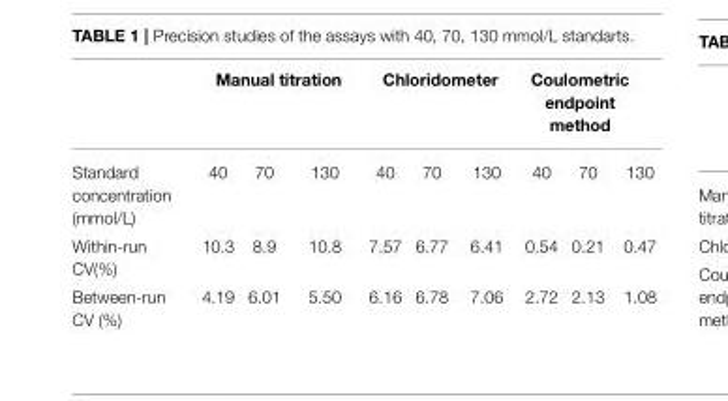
<table><thead><tr><td rowspan="2">Standard concentration (mmol/L)</td><td colspan="3">Manual titration</td><td colspan="3">Chloridometer</td><td colspan="3">Coulometric endpoint method</td></tr><tr><td>40</td><td>70</td><td>130</td><td>40</td><td>70</td><td>130</td><td>40</td><td>70</td><td>130</td></tr></thead><tbody><tr><td>Within-run CV(%)</td><td>10.3</td><td>8.9</td><td>10.8</td><td>7.57</td><td>6.77</td><td>6.41</td><td>0.54</td><td>0.21</td><td>0.47</td></tr><tr><td>Between-run CV (%)</td><td>4.19</td><td>6.01</td><td>5.50</td><td>6.16</td><td>6.78</td><td>7.06</td><td>2.72</td><td>2.13</td><td>1.08</td></tr></tbody></table>